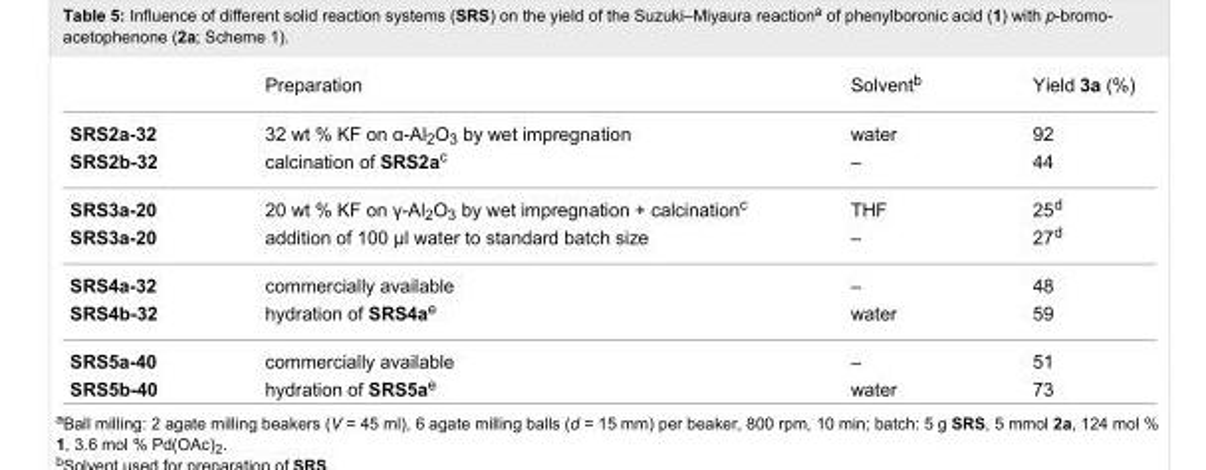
<table><thead><tr><td></td><td>Preparation</td><td>Solvent<sup>b</sup></td><td>Yield 3a (%)</td></tr></thead><tbody><tr><td>SRS2a-32</td><td>32 wt % KF on α-Al<sub>2</sub>O<sub>3</sub> by wet impregnation</td><td>water</td><td>92</td></tr><tr><td>SRS2b-32</td><td>calcination of SRS2a<sup>c</sup></td><td>–</td><td>44</td></tr><tr><td>SRS3a-20</td><td>20 wt % KF on γ-Al<sub>2</sub>O<sub>3</sub> by wet impregnation + calcination<sup>c</sup></td><td>THF</td><td>25<sup>d</sup></td></tr><tr><td>SRS3a-20</td><td>addition of 100 µl water to standard batch size</td><td>–</td><td>27<sup>d</sup></td></tr><tr><td>SRS4a-32</td><td>commercially available</td><td>–</td><td>48</td></tr><tr><td>SRS4b-32</td><td>hydration of SRS4a<sup>e</sup></td><td>water</td><td>59</td></tr><tr><td>SRS5a-40</td><td>commercially available</td><td>–</td><td>51</td></tr><tr><td>SRS5b-40</td><td>hydration of SRS5a<sup>e</sup></td><td>water</td><td>73</td></tr></tbody></table>